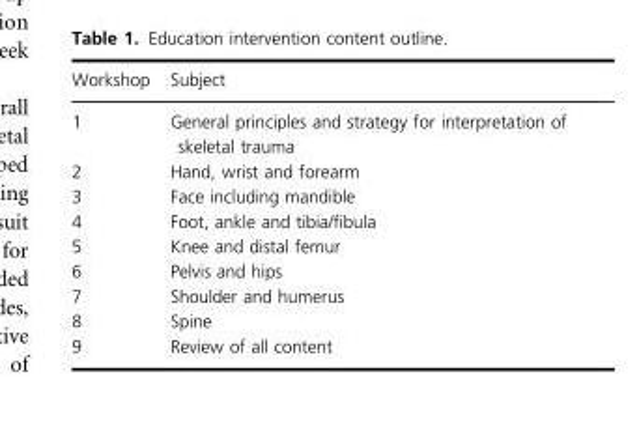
<table><thead><tr><td>Workshop</td><td>Subject</td></tr></thead><tbody><tr><td>1</td><td>General principles and strategy for interpretation of skeletal trauma</td></tr><tr><td>2</td><td>Hand, wrist and forearm</td></tr><tr><td>3</td><td>Face including mandible</td></tr><tr><td>4</td><td>Foot, ankle and tibia/fibula</td></tr><tr><td>5</td><td>Knee and distal femur</td></tr><tr><td>6</td><td>Pelvis and hips</td></tr><tr><td>7</td><td>Shoulder and humerus</td></tr><tr><td>8</td><td>Spine</td></tr><tr><td>9</td><td>Review of all content</td></tr></tbody></table>